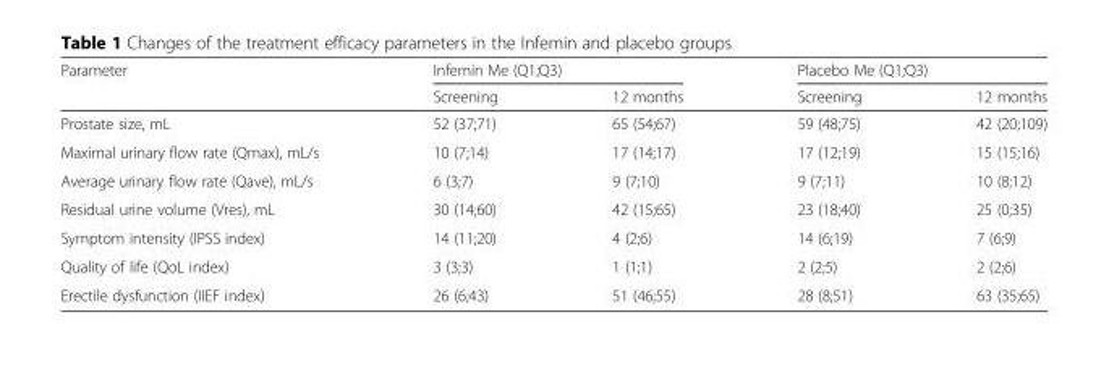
<table><thead><tr><td rowspan="2">Parameter</td><td colspan="2">Infemin Me (Q1;Q3)</td><td colspan="2">Placebo Me (Q1;Q3)</td></tr><tr><td>Screening</td><td>12 months</td><td>Screening</td><td>12 months</td></tr></thead><tbody><tr><td>Prostate size, mL</td><td>52 (37;71)</td><td>65 (54;67)</td><td>59 (48;75)</td><td>42 (20;109)</td></tr><tr><td>Maximal urinary flow rate (Qmax), mL/s</td><td>10 (7;14)</td><td>17 (14;17)</td><td>17 (12;19)</td><td>15 (15;16)</td></tr><tr><td>Average urinary flow rate (Qave), mL/s</td><td>6 (3;7)</td><td>9 (7;10)</td><td>9 (7;11)</td><td>10 (8;12)</td></tr><tr><td>Residual urine volume (Vres), mL</td><td>30 (14;60)</td><td>42 (15;65)</td><td>23 (18;40)</td><td>25 (0;35)</td></tr><tr><td>Symptom intensity (IPSS index)</td><td>14 (11;20)</td><td>4 (2;6)</td><td>14 (6;19)</td><td>7 (6;9)</td></tr><tr><td>Quality of life (QoL index)</td><td>3 (3;3)</td><td>1 (1;1)</td><td>2 (2;5)</td><td>2 (2;6)</td></tr><tr><td>Erectile dysfunction (IIEF index)</td><td>26 (6;43)</td><td>51 (46;55)</td><td>28 (8;51)</td><td>63 (35;65)</td></tr></tbody></table>